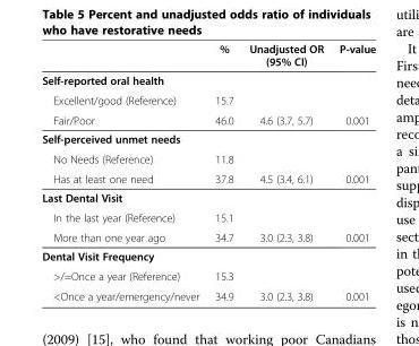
<table><thead><tr><td></td><td>%</td><td>Unadjusted OR (95% CI)</td><td>P-value</td></tr></thead><tbody><tr><td colspan="4">Self-reported oral health</td></tr><tr><td>Excellent/good (Reference)</td><td>15.7</td><td></td><td></td></tr><tr><td>Fair/Poor</td><td>46.0</td><td>4.6 (3.7, 5.7)</td><td>0.001</td></tr><tr><td colspan="4">Self-perceived unmet needs</td></tr><tr><td>No Needs (Reference)</td><td>11.8</td><td></td><td></td></tr><tr><td>Has at least one need</td><td>37.8</td><td>4.5 (3.4, 6.1)</td><td>0.001</td></tr><tr><td colspan="4">Last Dental Visit</td></tr><tr><td>In the last year (Reference)</td><td>15.1</td><td></td><td></td></tr><tr><td>More than one year ago</td><td>34.7</td><td>3.0 (2.3, 3.8)</td><td>0.001</td></tr><tr><td colspan="4">Dental Visit Frequency</td></tr><tr><td>&gt;/=Once a year (Reference)</td><td>15.3</td><td></td><td></td></tr><tr><td>&lt;Once a year/emergency/never</td><td>34.9</td><td>3.0 (2.3, 3.8)</td><td>0.001</td></tr></tbody></table>